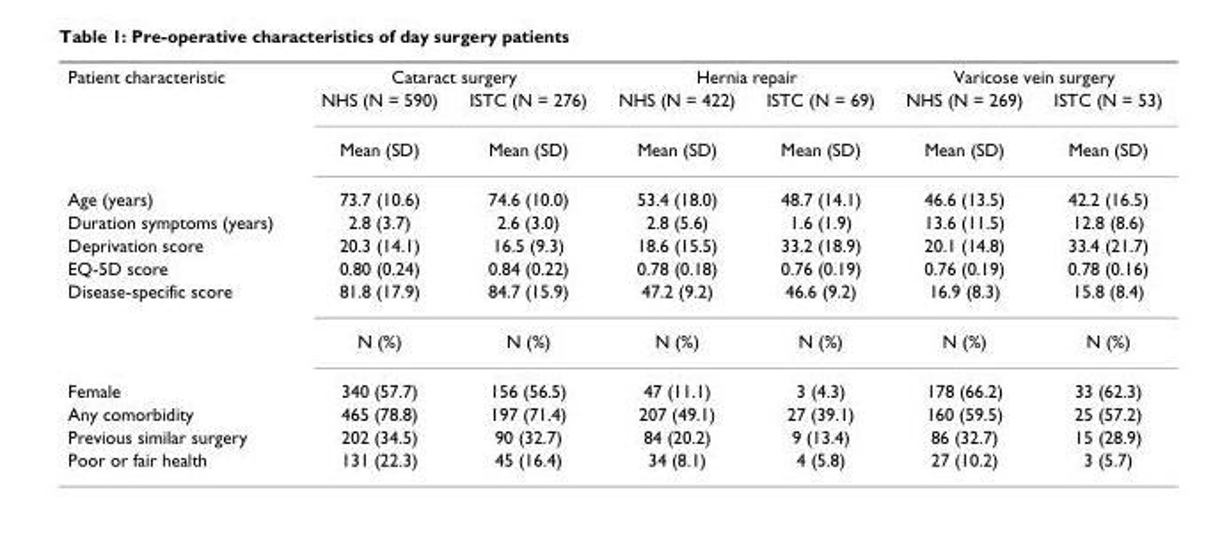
<table><tbody><tr><td rowspan="3">Patient characteristic</td><td colspan="2">Cataract surgery</td><td colspan="2">Hernia repair</td><td colspan="2">Varicose vein surgery</td></tr><tr><td>NHS (N = 590)</td><td>ISTC (N = 276)</td><td>NHS (N = 422)</td><td>ISTC (N = 69)</td><td>NHS (N = 269)</td><td>ISTC (N = 53)</td></tr><tr><td>Mean (SD)</td><td>Mean (SD)</td><td>Mean (SD)</td><td>Mean (SD)</td><td>Mean (SD)</td><td>Mean (SD)</td></tr><tr><td>Age (years)</td><td>73.7 (10.6)</td><td>74.6 (10.0)</td><td>53.4 (18.0)</td><td>48.7 (14.1)</td><td>46.6 (13.5)</td><td>42.2 (16.5)</td></tr><tr><td>Duration symptoms (years)</td><td>2.8 (3.7)</td><td>2.6 (3.0)</td><td>2.8 (5.6)</td><td>1.6 (1.9)</td><td>13.6 (11.5)</td><td>12.8 (8.6)</td></tr><tr><td>Deprivation score</td><td>20.3 (14.1)</td><td>16.5 (9.3)</td><td>18.6 (15.5)</td><td>33.2 (18.9)</td><td>20.1 (14.8)</td><td>33.4 (21.7)</td></tr><tr><td>EQ-5D score</td><td>0.80 (0.24)</td><td>0.84 (0.22)</td><td>0.78 (0.18)</td><td>0.76 (0.19)</td><td>0.76 (0.19)</td><td>0.78 (0.16)</td></tr><tr><td rowspan="2">Disease-specific score</td><td>81.8 (17.9)</td><td>84.7 (15.9)</td><td>47.2 (9.2)</td><td>46.6 (9.2)</td><td>16.9 (8.3)</td><td>15.8 (8.4)</td></tr><tr><td>N (%)</td><td>N (%)</td><td>N (%)</td><td>N (%)</td><td>N (%)</td><td>N (%)</td></tr><tr><td>Female</td><td>340 (57.7)</td><td>156 (56.5)</td><td>47 (11.1)</td><td>3 (4.3)</td><td>178 (66.2)</td><td>33 (62.3)</td></tr><tr><td>Any comorbidity</td><td>465 (78.8)</td><td>197 (71.4)</td><td>207 (49.1)</td><td>27 (39.1)</td><td>160 (59.5)</td><td>25 (57.2)</td></tr><tr><td>Previous similar surgery</td><td>202 (34.5)</td><td>90 (32.7)</td><td>84 (20.2)</td><td>9 (13.4)</td><td>86 (32.7)</td><td>15 (28.9)</td></tr><tr><td>Poor or fair health</td><td>131 (22.3)</td><td>45 (16.4)</td><td>34 (8.1)</td><td>4 (5.8)</td><td>27 (10.2)</td><td>3 (5.7)</td></tr></tbody></table>